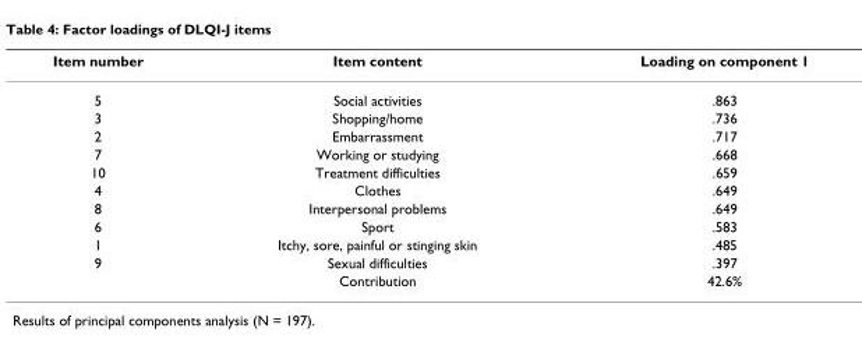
<table><thead><tr><td>Item number</td><td>Item content</td><td>Loading on component 1</td></tr></thead><tbody><tr><td>5</td><td>Social activities</td><td>.863</td></tr><tr><td>3</td><td>Shopping/home</td><td>.736</td></tr><tr><td>2</td><td>Embarrassment</td><td>.717</td></tr><tr><td>7</td><td>Working or studying</td><td>.668</td></tr><tr><td>10</td><td>Treatment difficulties</td><td>.659</td></tr><tr><td>4</td><td>Clothes</td><td>.649</td></tr><tr><td>8</td><td>Interpersonal problems</td><td>.649</td></tr><tr><td>6</td><td>Sport</td><td>.583</td></tr><tr><td>1</td><td>Itchy, sore, painful or stinging skin</td><td>.485</td></tr><tr><td rowspan="2">9</td><td>Sexual difficulties</td><td>.397</td></tr><tr><td>Contribution</td><td>42.6%</td></tr></tbody></table>